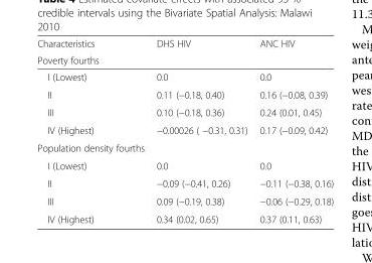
<table><thead><tr><td rowspan="2">Characteristics Poverty fourths</td><td rowspan="2">DHS HIV</td><td rowspan="2">ANC HIV</td></tr><tr></tr></thead><tbody><tr><td>I (Lowest)</td><td>0.0</td><td>0.0</td></tr><tr><td>II</td><td>0.11 (−0.18, 0.40)</td><td>0.16 (−0.08, 0.39)</td></tr><tr><td>III</td><td>0.10 (−0.18, 0.36)</td><td>0.24 (0.01, 0.45)</td></tr><tr><td>IV (Highest)</td><td>−0.00026 ( −0.31, 0.31)</td><td>0.17 (−0.09, 0.42)</td></tr><tr><td colspan="3">Population density fourths</td></tr><tr><td>I (Lowest)</td><td>0.0</td><td>0.0</td></tr><tr><td>II</td><td>−0.09 (−0.41, 0.26)</td><td>−0.11 (−0.38, 0.16)</td></tr><tr><td>III</td><td>0.09 (−0.19, 0.38)</td><td>−0.06 (−0.29, 0.18)</td></tr><tr><td>IV (Highest)</td><td>0.34 (0.02, 0.65)</td><td>0.37 (0.11, 0.63)</td></tr></tbody></table>